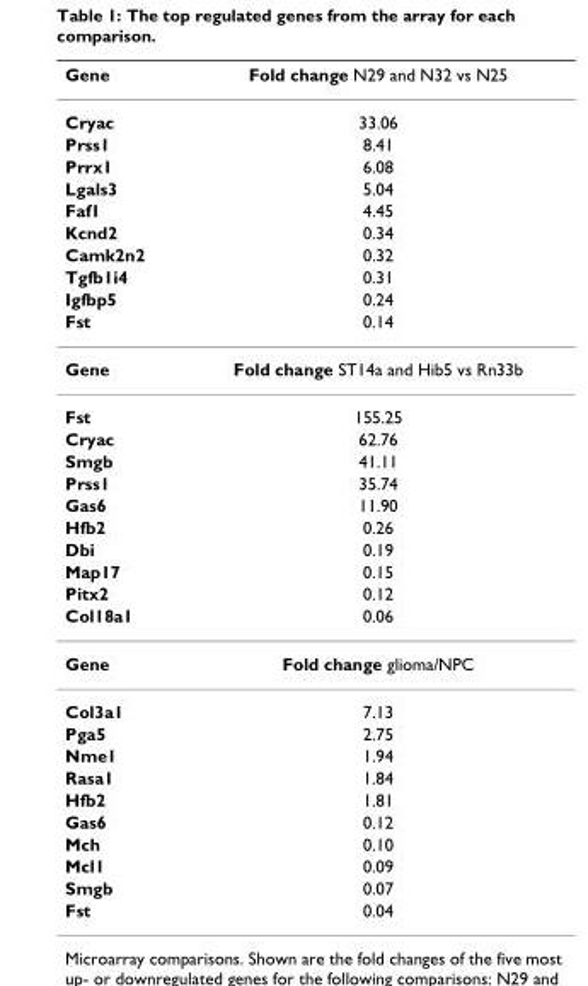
<table><thead><tr><td>Gene</td><td>Fold change N29 and N32 vs N25</td></tr></thead><tbody><tr><td>Cryac</td><td>33.06</td></tr><tr><td>Prss1</td><td>8.41</td></tr><tr><td>Prrx1</td><td>6.08</td></tr><tr><td>Lgals3</td><td>5.04</td></tr><tr><td>Faf1</td><td>4.45</td></tr><tr><td>Kcnd2</td><td>0.34</td></tr><tr><td>Camk2n2</td><td>0.32</td></tr><tr><td>Tgfb1i4</td><td>0.31</td></tr><tr><td>Igfbp5</td><td>0.24</td></tr><tr><td>Fst</td><td>0.14</td></tr><tr><td>Gene</td><td>Fold change ST14a and Hib5 vs Rn33b</td></tr><tr><td>Fst</td><td>155.25</td></tr><tr><td>Cryac</td><td>62.76</td></tr><tr><td>Smgb</td><td>41.11</td></tr><tr><td>Prss1</td><td>35.74</td></tr><tr><td>Gas6</td><td>11.90</td></tr><tr><td>Hfb2</td><td>0.26</td></tr><tr><td>Dbi</td><td>0.19</td></tr><tr><td>Map17</td><td>0.15</td></tr><tr><td>Pitx2</td><td>0.12</td></tr><tr><td>Col18a1</td><td>0.06</td></tr><tr><td>Gene</td><td>Fold change glioma/NPC</td></tr><tr><td>Col3a1</td><td>7.13</td></tr><tr><td>Pga5</td><td>2.75</td></tr><tr><td>Nme1</td><td>1.94</td></tr><tr><td>Rasa1</td><td>1.84</td></tr><tr><td>Hfb2</td><td>1.81</td></tr><tr><td>Gas6</td><td>0.12</td></tr><tr><td>Mch</td><td>0.10</td></tr><tr><td>Mcl1</td><td>0.09</td></tr><tr><td>Smgb</td><td>0.07</td></tr><tr><td>Fst</td><td>0.04</td></tr></tbody></table>